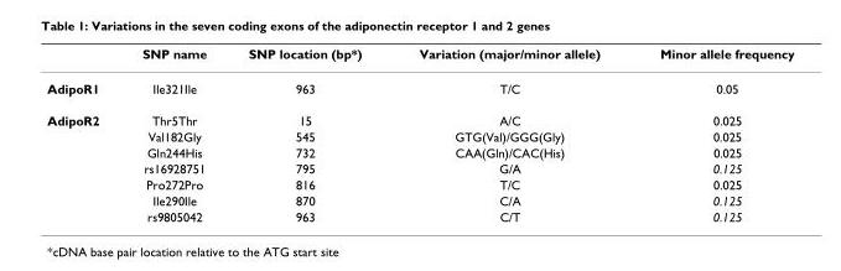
<table><thead><tr><td></td><td>SNP name</td><td>SNP location (bp*)</td><td>Variation (major/minor allele)</td><td>Minor allele frequency</td></tr></thead><tbody><tr><td>AdipoR1</td><td>Ile321Ile</td><td>963</td><td>T/C</td><td>0.05</td></tr><tr><td rowspan="7">AdipoR2</td><td>Thr5Thr</td><td>15</td><td>A/C</td><td>0.025</td></tr><tr><td>Val182Gly</td><td>545</td><td>GTG(Val)/GGG(Gly)</td><td>0.025</td></tr><tr><td>Gln244His</td><td>732</td><td>CAA(Gln)/CAC(His)</td><td>0.025</td></tr><tr><td>rs16928751</td><td>795</td><td>G/A</td><td>0.125</td></tr><tr><td>Pro272Pro</td><td>816</td><td>T/C</td><td>0.025</td></tr><tr><td>Ile290Ile</td><td>870</td><td>C/A</td><td>0.125</td></tr><tr><td>rs9805042</td><td>963</td><td>C/T</td><td>0.125</td></tr></tbody></table>